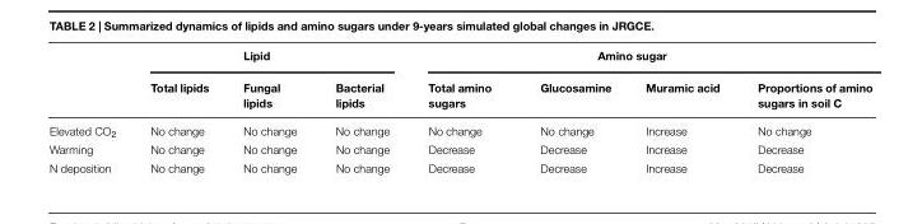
<table><thead><tr><td rowspan="2"></td><td colspan="3">Lipid</td><td colspan="4">Amino sugar</td></tr><tr><td>Total lipids</td><td>Fungal lipids</td><td>Bacterial lipids</td><td>Total amino sugars</td><td>Glucosamine</td><td>Muramic acid</td><td>Proportions of amino sugars in soil C</td></tr></thead><tbody><tr><td>Elevated CO<sub>2</sub></td><td>No change</td><td>No change</td><td>No change</td><td>No change</td><td>No change</td><td>Increase</td><td>No change</td></tr><tr><td>Warming</td><td>No change</td><td>No change</td><td>No change</td><td>Decrease</td><td>Decrease</td><td>Increase</td><td>Decrease</td></tr><tr><td>N deposition</td><td>No change</td><td>No change</td><td>No change</td><td>Decrease</td><td>Decrease</td><td>Increase</td><td>Decrease</td></tr></tbody></table>